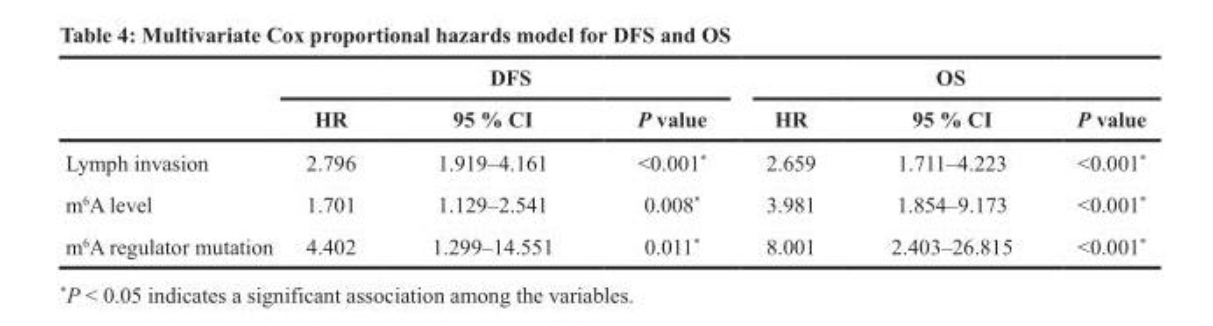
<table><thead><tr><td rowspan="2"></td><td colspan="3">DFS</td><td colspan="3">OS</td></tr><tr><td>HR</td><td>95 % CI</td><td>P value</td><td>HR</td><td>95 % CI</td><td>P value</td></tr></thead><tbody><tr><td>Lymph invasion</td><td>2.796</td><td>1.919–4.161</td><td>&lt;0.001*</td><td>2.659</td><td>1.711–4.223</td><td>&lt;0.001*</td></tr><tr><td>m<sup>6</sup>A level</td><td>1.701</td><td>1.129–2.541</td><td>0.008*</td><td>3.981</td><td>1.854–9.173</td><td>&lt;0.001*</td></tr><tr><td>m<sup>6</sup>A regulator mutation</td><td>4.402</td><td>1.299–14.551</td><td>0.011*</td><td>8.001</td><td>2.403–26.815</td><td>&lt;0.001*</td></tr></tbody></table>